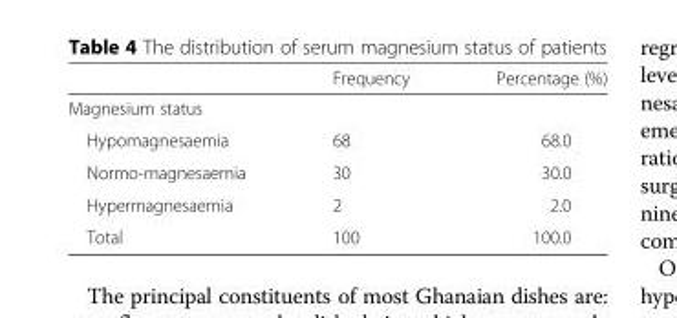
<table><thead><tr><td></td><td>Frequency</td><td>Percentage (%)</td></tr></thead><tbody><tr><td colspan="3">Magnesium status</td></tr><tr><td>Hypomagnesaemia</td><td>68</td><td>68.0</td></tr><tr><td>Normo-magnesaemia</td><td>30</td><td>30.0</td></tr><tr><td>Hypermagnesaemia</td><td>2</td><td>2.0</td></tr><tr><td>Total</td><td>100</td><td>100.0</td></tr></tbody></table>